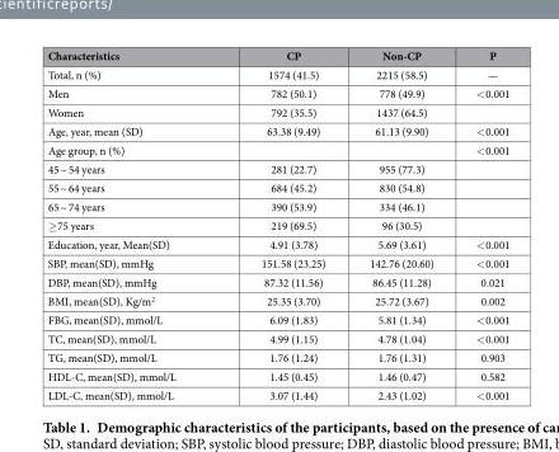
<table><thead><tr><td>Characteristics</td><td>CP</td><td>Non-CP</td><td>P</td></tr></thead><tbody><tr><td>Total, n (%)</td><td>1574 (41.5)</td><td>2215 (58.5)</td><td>—</td></tr><tr><td>Men</td><td>782 (50.1)</td><td>778 (49.9)</td><td>&lt; 0.001</td></tr><tr><td>Women</td><td>792 (35.5)</td><td>1437 (64.5)</td><td></td></tr><tr><td>Age, year, mean (SD)</td><td>63.38 (9.49)</td><td>61.13 (9.90)</td><td>&lt; 0.001</td></tr><tr><td>Age group, n (%)</td><td></td><td></td><td>&lt; 0.001</td></tr><tr><td>45 ~ 54 years</td><td>281 (22.7)</td><td>955 (77.3)</td><td></td></tr><tr><td>55 ~ 64 years</td><td>684 (45.2)</td><td>830 (54.8)</td><td></td></tr><tr><td>65 ~ 74 years</td><td>390 (53.9)</td><td>334 (46.1)</td><td></td></tr><tr><td>≥ 75 years</td><td>219 (69.5)</td><td>96 (30.5)</td><td></td></tr><tr><td>Education, year, Mean(SD)</td><td>4.91 (3.78)</td><td>5.69 (3.61)</td><td>&lt; 0.001</td></tr><tr><td>SBP, mean(SD), mmHg</td><td>151.58 (23.25)</td><td>142.76 (20.60)</td><td>&lt; 0.001</td></tr><tr><td>DBP, mean(SD), mmHg</td><td>87.32 (11.56)</td><td>86.45 (11.28)</td><td>0.021</td></tr><tr><td>BMI, mean(SD), Kg/m<sup>2</sup></td><td>25.35 (3.70)</td><td>25.72 (3.67)</td><td>0.002</td></tr><tr><td>FBG, mean(SD), mmol/L</td><td>6.09 (1.83)</td><td>5.81 (1.34)</td><td>&lt; 0.001</td></tr><tr><td>TC, mean(SD), mmol/L</td><td>4.99 (1.15)</td><td>4.78 (1.04)</td><td>&lt; 0.001</td></tr><tr><td>TG, mean(SD), mmol/L</td><td>1.76 (1.24)</td><td>1.76 (1.31)</td><td>0.903</td></tr><tr><td>HDL-C, mean(SD), mmol/L</td><td>1.45 (0.45)</td><td>1.46 (0.47)</td><td>0.582</td></tr><tr><td>LDL-C, mean(SD), mmol/L</td><td>3.07 (1.44)</td><td>2.43 (1.02)</td><td>&lt; 0.001</td></tr></tbody></table>